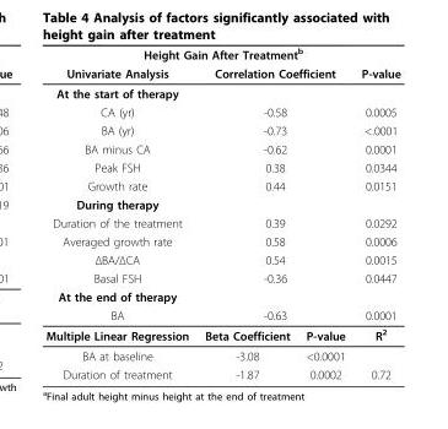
<table><thead><tr><td colspan="4">Height Gain After Treatment<sup>b</sup></td></tr><tr><td rowspan="2">Univariate Analysis At the start of therapy</td><td colspan="2">Correlation Coefficient</td><td rowspan="2">P-value</td></tr><tr><td></td><td></td></tr></thead><tbody><tr><td>CA (yr)</td><td colspan="2">-0.58</td><td>0.0005</td></tr><tr><td>BA (yr)</td><td colspan="2">-0.73</td><td>&lt;.0001</td></tr><tr><td>BA minus CA</td><td colspan="2">-0.62</td><td>0.0001</td></tr><tr><td>Peak FSH</td><td colspan="2">0.38</td><td>0.0344</td></tr><tr><td>Growth rate</td><td colspan="2">0.44</td><td>0.0151</td></tr><tr><td colspan="4">During therapy</td></tr><tr><td>Duration of the treatment</td><td colspan="2">0.39</td><td>0.0292</td></tr><tr><td>Averaged growth rate</td><td colspan="2">0.58</td><td>0.0006</td></tr><tr><td>ΔBA/ΔCA</td><td colspan="2">0.54</td><td>0.0015</td></tr><tr><td>Basal FSH</td><td colspan="2">-0.36</td><td>0.0447</td></tr><tr><td colspan="4">At the end of therapy</td></tr><tr><td>BA</td><td colspan="2">-0.63</td><td>0.0001</td></tr><tr><td>Multiple Linear Regression</td><td>Beta Coefficient</td><td>P-value</td><td>R<sup>2</sup></td></tr><tr><td>BA at baseline</td><td>-3.08</td><td>&lt;0.0001</td><td></td></tr><tr><td>Duration of treatment</td><td>-1.87</td><td>0.0002</td><td>0.72</td></tr></tbody></table>